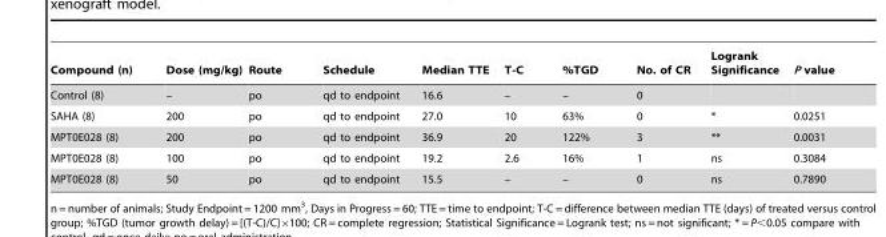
<table><thead><tr><td>Compound (n)</td><td>Dose (mg/kg)</td><td>Route</td><td>Schedule</td><td>Median TTE</td><td>T-C</td><td>%TGD</td><td>No. of CR</td><td>Logrank Significance</td><td>P value</td></tr></thead><tbody><tr><td>Control (8)</td><td>–</td><td>po</td><td>qd to endpoint</td><td>16.6</td><td>–</td><td>–</td><td>0</td><td></td><td></td></tr><tr><td>SAHA (8)</td><td>200</td><td>po</td><td>qd to endpoint</td><td>27.0</td><td>10</td><td>63%</td><td>0</td><td>*</td><td>0.0251</td></tr><tr><td>MPT0E028 (8)</td><td>200</td><td>po</td><td>qd to endpoint</td><td>36.9</td><td>20</td><td>122%</td><td>3</td><td>**</td><td>0.0031</td></tr><tr><td>MPT0E028 (8)</td><td>100</td><td>po</td><td>qd to endpoint</td><td>19.2</td><td>2.6</td><td>16%</td><td>1</td><td>ns</td><td>0.3084</td></tr><tr><td>MPT0E028 (8)</td><td>50</td><td>po</td><td>qd to endpoint</td><td>15.5</td><td>–</td><td>–</td><td>0</td><td>ns</td><td>0.7890</td></tr></tbody></table>